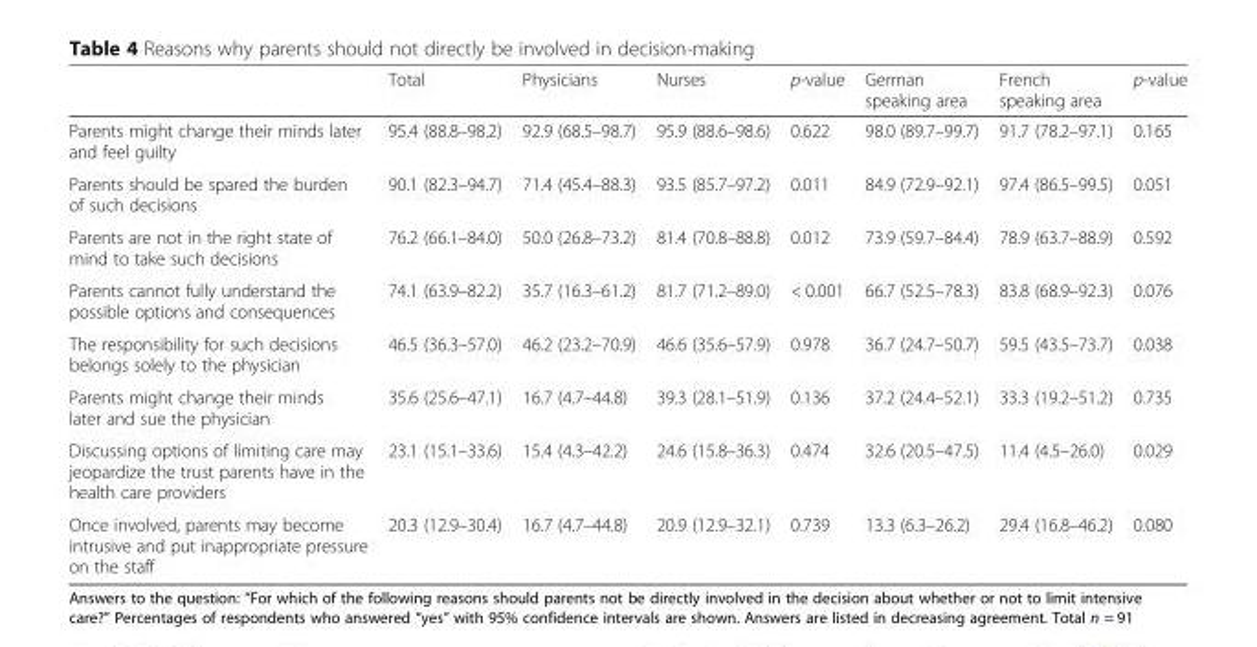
<table><thead><tr><td></td><td>Total</td><td>Physicians</td><td>Nurses</td><td>p-value</td><td>German speaking area</td><td>French speaking area</td><td>p-value</td></tr></thead><tbody><tr><td>Parents might change their minds later and feel guilty</td><td>95.4 (88.8–98.2)</td><td>92.9 (68.5–98.7)</td><td>95.9 (88.6–98.6)</td><td>0.622</td><td>98.0 (89.7–99.7)</td><td>91.7 (78.2–97.1)</td><td>0.165</td></tr><tr><td>Parents should be spared the burden of such decisions</td><td>90.1 (82.3–94.7)</td><td>71.4 (45.4–88.3)</td><td>93.5 (85.7–97.2)</td><td>0.011</td><td>84.9 (72.9–92.1)</td><td>97.4 (86.5–99.5)</td><td>0.051</td></tr><tr><td>Parents are not in the right state of mind to take such decisions</td><td>76.2 (66.1–84.0)</td><td>50.0 (26.8–73.2)</td><td>81.4 (70.8–88.8)</td><td>0.012</td><td>73.9 (59.7–84.4)</td><td>78.9 (63.7–88.9)</td><td>0.592</td></tr><tr><td>Parents cannot fully understand the possible options and consequences</td><td>74.1 (63.9–82.2)</td><td>35.7 (16.3–61.2)</td><td>81.7 (71.2–89.0)</td><td>&lt; 0.001</td><td>66.7 (52.5–78.3)</td><td>83.8 (68.9–92.3)</td><td>0.076</td></tr><tr><td>The responsibility for such decisions belongs solely to the physician</td><td>46.5 (36.3–57.0)</td><td>46.2 (23.2–70.9)</td><td>46.6 (35.6–57.9)</td><td>0.978</td><td>36.7 (24.7–50.7)</td><td>59.5 (43.5–73.7)</td><td>0.038</td></tr><tr><td>Parents might change their minds later and sue the physician</td><td>35.6 (25.6–47.1)</td><td>16.7 (4.7–44.8)</td><td>39.3 (28.1–51.9)</td><td>0.136</td><td>37.2 (24.4–52.1)</td><td>33.3 (19.2–51.2)</td><td>0.735</td></tr><tr><td>Discussing options of limiting care may jeopardize the trust parents have in the health care providers</td><td>23.1 (15.1–33.6)</td><td>15.4 (4.3–42.2)</td><td>24.6 (15.8–36.3)</td><td>0.474</td><td>32.6 (20.5–47.5)</td><td>11.4 (4.5–26.0)</td><td>0.029</td></tr><tr><td>Once involved, parents may become intrusive and put inappropriate pressure on the staff</td><td>20.3 (12.9–30.4)</td><td>16.7 (4.7–44.8)</td><td>20.9 (12.9–32.1)</td><td>0.739</td><td>13.3 (6.3–26.2)</td><td>29.4 (16.8–46.2)</td><td>0.080</td></tr></tbody></table>